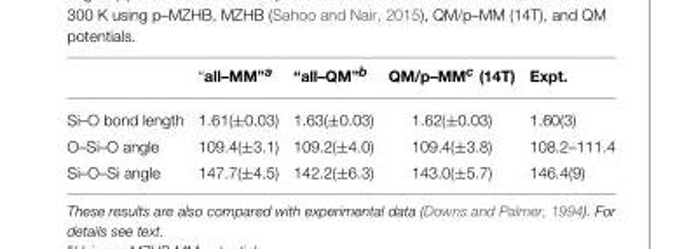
<table><thead><tr><td></td><td>“all–MM”<sup>a</sup></td><td>“all–QM”<sup>b</sup></td><td>QM/p–MM<sup>c</sup> (14T)</td><td>Expt.</td></tr></thead><tbody><tr><td>Si–O bond length</td><td>1.61(±0.03)</td><td>1.63(±0.03)</td><td>1.62(±0.03)</td><td>1.60(3)</td></tr><tr><td>O–Si–O angle</td><td>109.4(±3.1)</td><td>109.2(±4.0)</td><td>109.4(±3.8)</td><td>108.2–111.4</td></tr><tr><td>Si–O–Si angle</td><td>147.7(±4.5)</td><td>142.2(±6.3)</td><td>143.0(±5.7)</td><td>146.4(9)</td></tr></tbody></table>